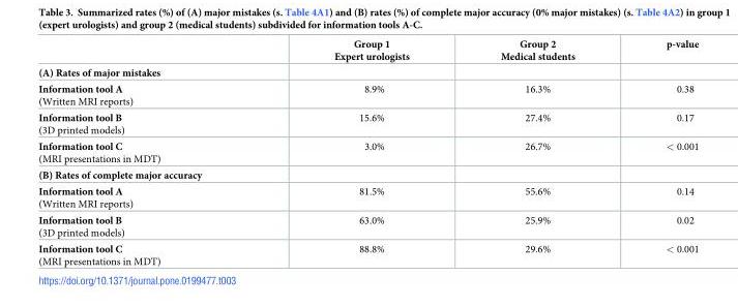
<table><thead><tr><td></td><td>Group 1 Expert urologists</td><td>Group 2 Medical students</td><td>p-value</td></tr></thead><tbody><tr><td colspan="4">(A) Rates of major mistakes</td></tr><tr><td>Information tool A (Written MRI reports)</td><td>8.9%</td><td>16.3%</td><td>0.38</td></tr><tr><td>Information tool B (3D printed models)</td><td>15.6%</td><td>27.4%</td><td>0.17</td></tr><tr><td>Information tool C (MRI presentations in MDT)</td><td>3.0%</td><td>26.7%</td><td>&lt; 0.001</td></tr><tr><td colspan="4">(B) Rates of complete major accuracy</td></tr><tr><td>Information tool A (Written MRI reports)</td><td>81.5%</td><td>55.6%</td><td>0.14</td></tr><tr><td>Information tool B (3D printed models)</td><td>63.0%</td><td>25.9%</td><td>0.02</td></tr><tr><td>Information tool C (MRI presentations in MDT)</td><td>88.8%</td><td>29.6%</td><td>&lt; 0.001</td></tr></tbody></table>